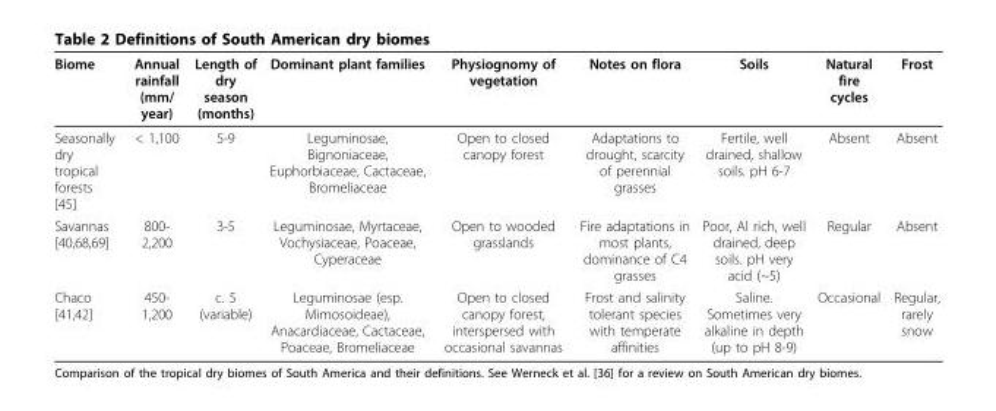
<table><thead><tr><td>Biome</td><td>Annual rainfall (mm/ year)</td><td>Length of dry season (months)</td><td>Dominant plant families</td><td>Physiognomy of vegetation</td><td>Notes on flora</td><td>Soils</td><td>Natural fire cycles</td><td>Frost</td></tr></thead><tbody><tr><td>Seasonally dry tropical forests [45]</td><td>&lt; 1,100</td><td>5-9</td><td>Leguminosae, Bignoniaceae, Euphorbiaceae, Cactaceae, Bromeliaceae</td><td>Open to closed canopy forest</td><td>Adaptations to drought, scarcity of perennial grasses</td><td>Fertile, well drained, shallow soils. pH 6-7</td><td>Absent</td><td>Absent</td></tr><tr><td>Savannas [40,68,69]</td><td>800- 2,200</td><td>3-5</td><td>Leguminosae, Myrtaceae, Vochysiaceae, Poaceae, Cyperaceae</td><td>Open to wooded grasslands</td><td>Fire adaptations in most plants, dominance of C4 grasses</td><td>Poor, Al rich, well drained, deep soils. pH very acid (~5)</td><td>Regular</td><td>Absent</td></tr><tr><td>Chaco [41,42]</td><td>450- 1,200</td><td>c. 5 (variable)</td><td>Leguminosae (esp. Mimosoideae), Anacardiaceae, Cactaceae, Poaceae, Bromeliaceae</td><td>Open to closed canopy forest, interspersed with occasional savannas</td><td>Frost and salinity tolerant species with temperate affinities</td><td>Saline. Sometimes very alkaline in depth (up to pH 8-9)</td><td>Occasional</td><td>Regular, rarely snow</td></tr></tbody></table>